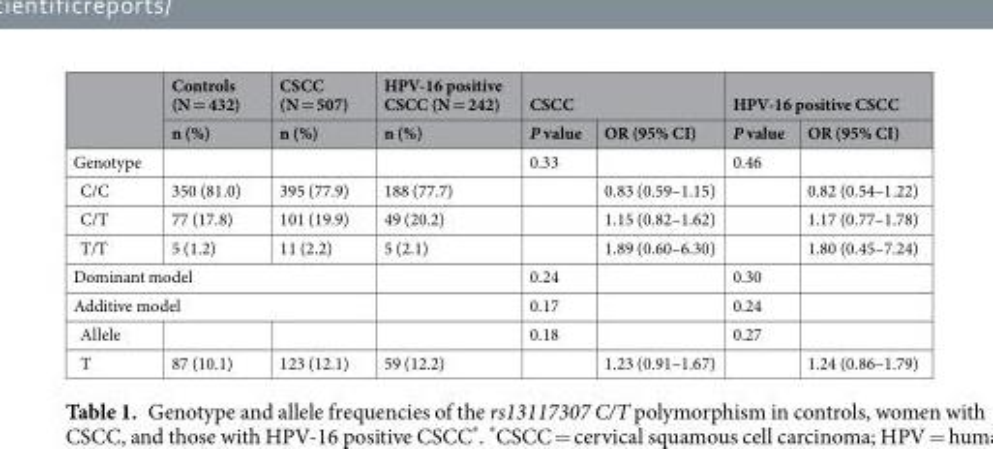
<table><thead><tr><td rowspan="2"></td><td rowspan="2">Controls (N = 432) n (%)</td><td rowspan="2">CSCC (N = 507) n (%)</td><td rowspan="2">HPV-16 positive CSCC (N = 242) n (%)</td><td colspan="2">CSCC</td><td colspan="2">HPV-16 positive CSCC</td></tr><tr><td>P value</td><td>OR (95% CI)</td><td>P value</td><td>OR (95% CI)</td></tr></thead><tbody><tr><td>Genotype</td><td></td><td></td><td></td><td>0.33</td><td></td><td>0.46</td><td></td></tr><tr><td>C/C</td><td>350 (81.0)</td><td>395 (77.9)</td><td>188 (77.7)</td><td></td><td>0.83 (0.59–1.15)</td><td></td><td>0.82 (0.54–1.22)</td></tr><tr><td>C/T</td><td>77 (17.8)</td><td>101 (19.9)</td><td>49 (20.2)</td><td></td><td>1.15 (0.82–1.62)</td><td></td><td>1.17 (0.77–1.78)</td></tr><tr><td>T/T</td><td>5 (1.2)</td><td>11 (2.2)</td><td>5 (2.1)</td><td></td><td>1.89 (0.60–6.30)</td><td></td><td>1.80 (0.45–7.24)</td></tr><tr><td colspan="3">Dominant model</td><td></td><td>0.24</td><td></td><td>0.30</td><td></td></tr><tr><td colspan="3">Additive model</td><td></td><td>0.17</td><td></td><td>0.24</td><td></td></tr><tr><td>Allele</td><td></td><td></td><td></td><td>0.18</td><td></td><td>0.27</td><td></td></tr><tr><td>T</td><td>87 (10.1)</td><td>123 (12.1)</td><td>59 (12.2)</td><td></td><td>1.23 (0.91–1.67)</td><td></td><td>1.24 (0.86–1.79)</td></tr></tbody></table>